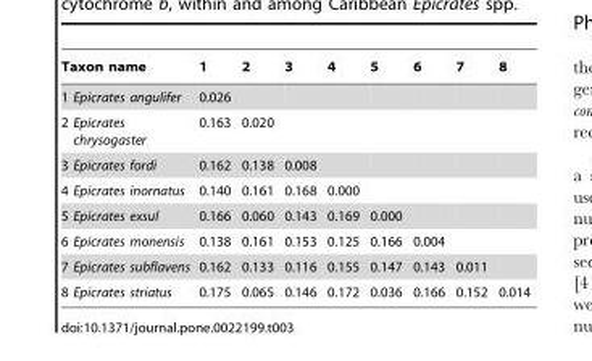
<table><thead><tr><td>Taxon name</td><td>1</td><td>2</td><td>3</td><td>4</td><td>5</td><td>6</td><td>7</td><td>8</td></tr></thead><tbody><tr><td>1 Epicrates angulifer</td><td>0.026</td><td></td><td></td><td></td><td></td><td></td><td></td><td></td></tr><tr><td>2 Epicrates chrysogaster</td><td>0.163</td><td>0.020</td><td></td><td></td><td></td><td></td><td></td><td></td></tr><tr><td>3 Epicrates fordi</td><td>0.162</td><td>0.138</td><td>0.008</td><td></td><td></td><td></td><td></td><td></td></tr><tr><td>4 Epicrates inornatus</td><td>0.140</td><td>0.161</td><td>0.168</td><td>0.000</td><td></td><td></td><td></td><td></td></tr><tr><td>5 Epicrates exsul</td><td>0.166</td><td>0.060</td><td>0.143</td><td>0.169</td><td>0.000</td><td></td><td></td><td></td></tr><tr><td>6 Epicrates monensis</td><td>0.138</td><td>0.161</td><td>0.153</td><td>0.125</td><td>0.166</td><td>0.004</td><td></td><td></td></tr><tr><td>7 Epicrates subflavens</td><td>0.162</td><td>0.133</td><td>0.116</td><td>0.155</td><td>0.147</td><td>0.143</td><td>0.011</td><td></td></tr><tr><td>8 Epicrates striatus</td><td>0.175</td><td>0.065</td><td>0.146</td><td>0.172</td><td>0.036</td><td>0.166</td><td>0.152</td><td>0.014</td></tr></tbody></table>